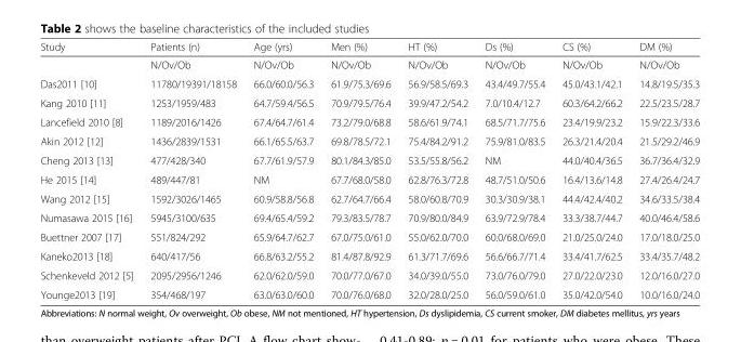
<table><thead><tr><td>Study</td><td>Patients (n)</td><td>Age (yrs)</td><td>Men (%)</td><td>HT (%)</td><td>Ds (%)</td><td>CS (%)</td><td>DM (%)</td></tr></thead><tbody><tr><td></td><td>N/Ov/Ob</td><td>N/Ov/Ob</td><td>N/Ov/Ob</td><td>N/Ov/Ob</td><td>N/Ov/Ob</td><td>N/Ov/Ob</td><td>N/Ov/Ob</td></tr><tr><td>Das2011 [10]</td><td>11780/19391/18158</td><td>66.0/60.0/56.3</td><td>61.9/75.3/69.6</td><td>56.9/58.5/69.3</td><td>43.4/49.7/55.4</td><td>45.0/43.1/42.1</td><td>14.8/19.5/35.3</td></tr><tr><td>Kang 2010 [11]</td><td>1253/1959/483</td><td>64.7/59.4/56.5</td><td>70.9/79.5/76.4</td><td>39.9/47.2/54.2</td><td>7.0/10.4/12.7</td><td>60.3/64.2/66.2</td><td>22.5/23.5/28.7</td></tr><tr><td>Lancefield 2010 [8]</td><td>1189/2016/1426</td><td>67.4/64.7/61.4</td><td>73.2/79.0/68.8</td><td>58.6/61.9/74.1</td><td>68.5/71.7/75.6</td><td>23.4/19.9/23.2</td><td>15.9/22.3/33.6</td></tr><tr><td>Akin 2012 [12]</td><td>1436/2839/1531</td><td>66.1/65.5/63.7</td><td>69.8/78.5/72.1</td><td>75.4/84.2/91.2</td><td>75.9/81.0/83.5</td><td>26.3/21.4/20.4</td><td>21.5/29.2/46.9</td></tr><tr><td>Cheng 2013 [13]</td><td>477/428/340</td><td>67.7/61.9/57.9</td><td>80.1/84.3/85.0</td><td>53.5/55.8/56.2</td><td>NM</td><td>44.0/40.4/36.5</td><td>36.7/36.4/32.9</td></tr><tr><td>He 2015 [14]</td><td>489/447/81</td><td>NM</td><td>67.7/68.0/58.0</td><td>62.8/76.3/72.8</td><td>48.7/51.0/50.6</td><td>16.4/13.6/14.8</td><td>27.4/26.4/24.7</td></tr><tr><td>Wang 2012 [15]</td><td>1592/3026/1465</td><td>60.9/58.8/56.8</td><td>62.7/64.7/66.4</td><td>58.0/60.8/70.9</td><td>30.3/30.9/38.1</td><td>44.4/42.4/40.2</td><td>34.6/33.5/38.4</td></tr><tr><td>Numasawa 2015 [16]</td><td>5945/3100/635</td><td>69.4/65.4/59.2</td><td>79.3/83.5/78.7</td><td>70.9/80.0/84.9</td><td>63.9/72.9/78.4</td><td>33.3/38.7/44.7</td><td>40.0/46.4/58.6</td></tr><tr><td>Buettner 2007 [17]</td><td>551/824/292</td><td>65.9/64.7/62.7</td><td>67.0/75.0/61.0</td><td>55.0/62.0/70.0</td><td>60.0/68.0/69.0</td><td>21.0/25.0/24.0</td><td>17.0/18.0/25.0</td></tr><tr><td>Kaneko2013 [18]</td><td>640/417/56</td><td>66.8/63.2/55.2</td><td>81.4/87.8/92.9</td><td>61.3/71.7/69.6</td><td>56.6/66.7/71.4</td><td>33.4/41.7/62.5</td><td>33.4/35.7/48.2</td></tr><tr><td>Schenkeveld 2012 [5]</td><td>2095/2956/1246</td><td>62.0/62.0/59.0</td><td>70.0/77.0/67.0</td><td>34.0/39.0/55.0</td><td>73.0/76.0/79.0</td><td>27.0/22.0/23.0</td><td>12.0/16.0/27.0</td></tr><tr><td>Younge2013 [19]</td><td>354/468/197</td><td>63.0/63.0/60.0</td><td>70.0/76.0/68.0</td><td>32.0/28.0/25.0</td><td>56.0/59.0/61.0</td><td>35.0/42.0/54.0</td><td>10.0/16.0/24.0</td></tr></tbody></table>